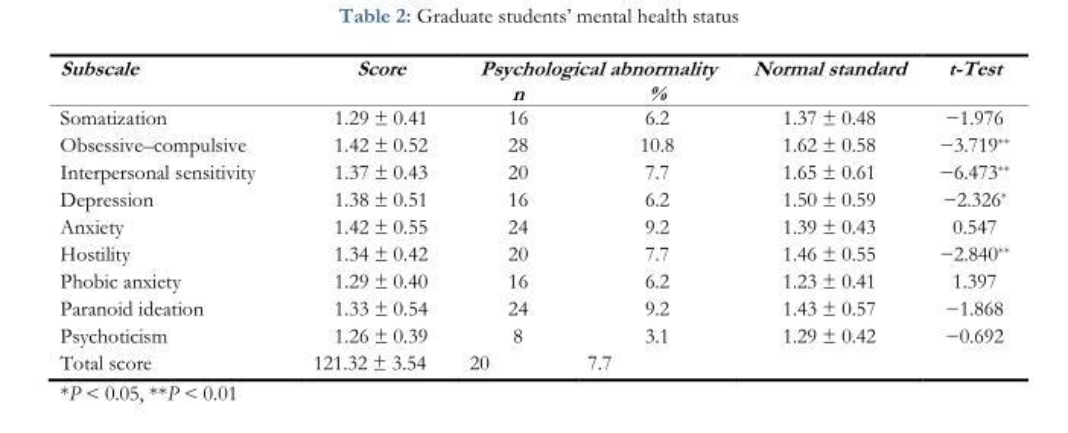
<table><thead><tr><td rowspan="2">Subscale</td><td rowspan="2">Score</td><td colspan="2">Psychological abnormality</td><td rowspan="2">Normal standard</td><td rowspan="2">t-Test</td></tr><tr><td>n</td><td>%</td></tr></thead><tbody><tr><td>Somatization</td><td>1.29 ± 0.41</td><td>16</td><td>6.2</td><td>1.37 ± 0.48</td><td>−1.976</td></tr><tr><td>Obsessive–compulsive</td><td>1.42 ± 0.52</td><td>28</td><td>10.8</td><td>1.62 ± 0.58</td><td>−3.719**</td></tr><tr><td>Interpersonal sensitivity</td><td>1.37 ± 0.43</td><td>20</td><td>7.7</td><td>1.65 ± 0.61</td><td>−6.473**</td></tr><tr><td>Depression</td><td>1.38 ± 0.51</td><td>16</td><td>6.2</td><td>1.50 ± 0.59</td><td>−2.326*</td></tr><tr><td>Anxiety</td><td>1.42 ± 0.55</td><td>24</td><td>9.2</td><td>1.39 ± 0.43</td><td>0.547</td></tr><tr><td>Hostility</td><td>1.34 ± 0.42</td><td>20</td><td>7.7</td><td>1.46 ± 0.55</td><td>−2.840**</td></tr><tr><td>Phobic anxiety</td><td>1.29 ± 0.40</td><td>16</td><td>6.2</td><td>1.23 ± 0.41</td><td>1.397</td></tr><tr><td>Paranoid ideation</td><td>1.33 ± 0.54</td><td>24</td><td>9.2</td><td>1.43 ± 0.57</td><td>−1.868</td></tr><tr><td>Psychoticism</td><td>1.26 ± 0.39</td><td>8</td><td>3.1</td><td>1.29 ± 0.42</td><td>−0.692</td></tr><tr><td>Total score</td><td>121.32 ± 3.54</td><td>20</td><td>7.7</td><td></td><td></td></tr></tbody></table>